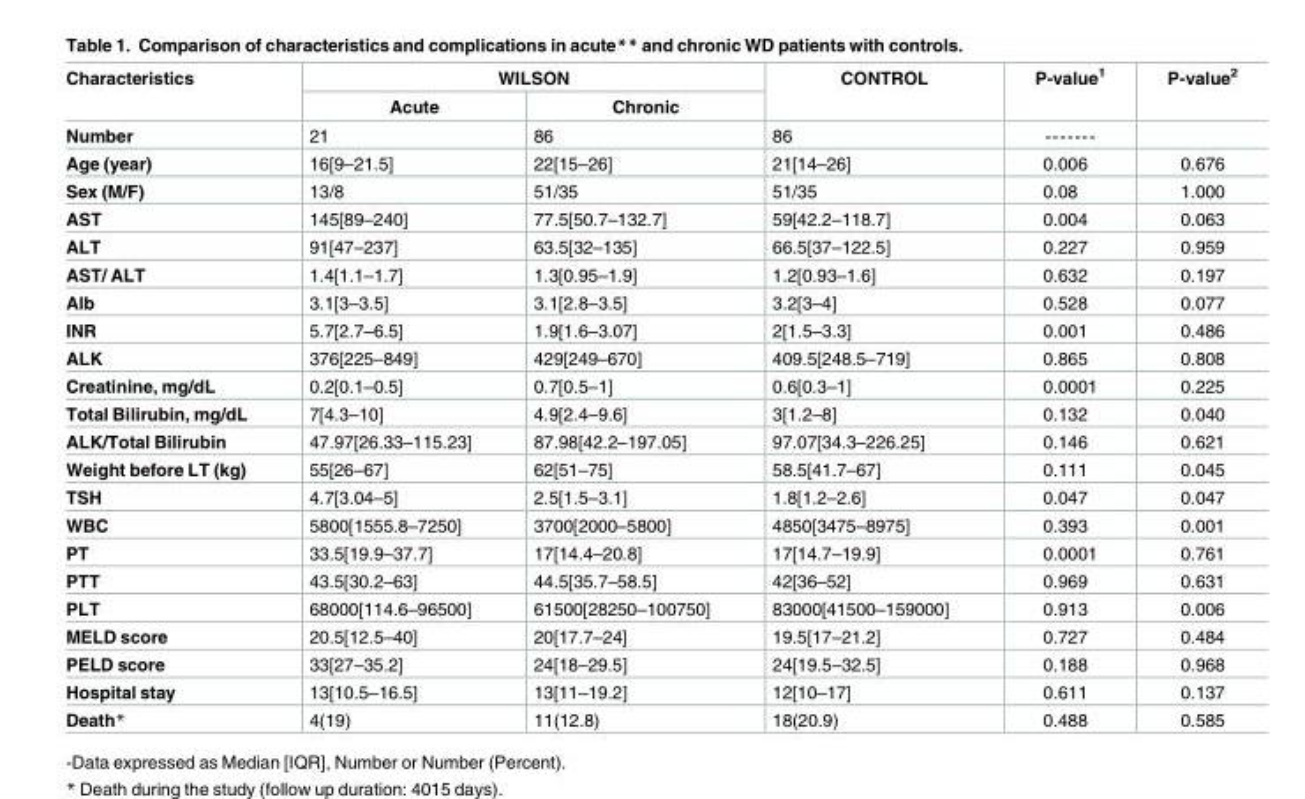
<table><thead><tr><td rowspan="2">Characteristics</td><td colspan="2">WILSON</td><td rowspan="2">CONTROL</td><td rowspan="2">P-value<sup>1</sup></td><td rowspan="2">P-value<sup>2</sup></td></tr><tr><td>Acute</td><td>Chronic</td></tr></thead><tbody><tr><td>Number</td><td>21</td><td>86</td><td>86</td><td>-------</td><td></td></tr><tr><td>Age (year)</td><td>16[9–21.5]</td><td>22[15–26]</td><td>21[14–26]</td><td>0.006</td><td>0.676</td></tr><tr><td>Sex (M/F)</td><td>13/8</td><td>51/35</td><td>51/35</td><td>0.08</td><td>1.000</td></tr><tr><td>AST</td><td>145[89–240]</td><td>77.5[50.7–132.7]</td><td>59[42.2–118.7]</td><td>0.004</td><td>0.063</td></tr><tr><td>ALT</td><td>91[47–237]</td><td>63.5[32–135]</td><td>66.5[37–122.5]</td><td>0.227</td><td>0.959</td></tr><tr><td>AST/ ALT</td><td>1.4[1.1–1.7]</td><td>1.3[0.95–1.9]</td><td>1.2[0.93–1.6]</td><td>0.632</td><td>0.197</td></tr><tr><td>Alb</td><td>3.1[3–3.5]</td><td>3.1[2.8–3.5]</td><td>3.2[3–4]</td><td>0.528</td><td>0.077</td></tr><tr><td>INR</td><td>5.7[2.7–6.5]</td><td>1.9[1.6–3.07]</td><td>2[1.5–3.3]</td><td>0.001</td><td>0.486</td></tr><tr><td>ALK</td><td>376[225–849]</td><td>429[249–670]</td><td>409.5[248.5–719]</td><td>0.865</td><td>0.808</td></tr><tr><td>Creatinine, mg/dL</td><td>0.2[0.1–0.5]</td><td>0.7[0.5–1]</td><td>0.6[0.3–1]</td><td>0.0001</td><td>0.225</td></tr><tr><td>Total Bilirubin, mg/dL</td><td>7[4.3–10]</td><td>4.9[2.4–9.6]</td><td>3[1.2–8]</td><td>0.132</td><td>0.040</td></tr><tr><td>ALK/Total Bilirubin</td><td>47.97[26.33–115.23]</td><td>87.98[42.2–197.05]</td><td>97.07[34.3–226.25]</td><td>0.146</td><td>0.621</td></tr><tr><td>Weight before LT (kg)</td><td>55[26–67]</td><td>62[51–75]</td><td>58.5[41.7–67]</td><td>0.111</td><td>0.045</td></tr><tr><td>TSH</td><td>4.7[3.04–5]</td><td>2.5[1.5–3.1]</td><td>1.8[1.2–2.6]</td><td>0.047</td><td>0.047</td></tr><tr><td>WBC</td><td>5800[1555.8–7250]</td><td>3700[2000–5800]</td><td>4850[3475–8975]</td><td>0.393</td><td>0.001</td></tr><tr><td>PT</td><td>33.5[19.9–37.7]</td><td>17[14.4–20.8]</td><td>17[14.7–19.9]</td><td>0.0001</td><td>0.761</td></tr><tr><td>PTT</td><td>43.5[30.2–63]</td><td>44.5[35.7–58.5]</td><td>42[36–52]</td><td>0.969</td><td>0.631</td></tr><tr><td>PLT</td><td>68000[114.6–96500]</td><td>61500[28250–100750]</td><td>83000[41500–159000]</td><td>0.913</td><td>0.006</td></tr><tr><td>MELD score</td><td>20.5[12.5–40]</td><td>20[17.7–24]</td><td>19.5[17–21.2]</td><td>0.727</td><td>0.484</td></tr><tr><td>PELD score</td><td>33[27–35.2]</td><td>24[18–29.5]</td><td>24[19.5–32.5]</td><td>0.188</td><td>0.968</td></tr><tr><td>Hospital stay</td><td>13[10.5–16.5]</td><td>13[11–19.2]</td><td>12[10–17]</td><td>0.611</td><td>0.137</td></tr><tr><td>Death*</td><td>4(19)</td><td>11(12.8)</td><td>18(20.9)</td><td>0.488</td><td>0.585</td></tr></tbody></table>